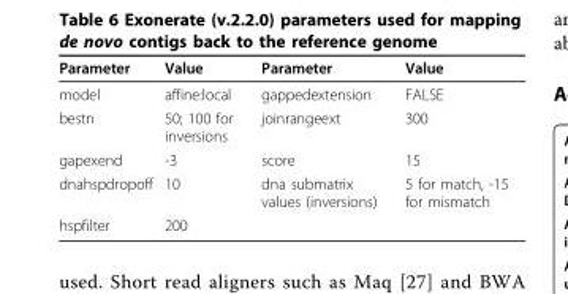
<table><thead><tr><td>Parameter</td><td>Value</td><td>Parameter</td><td>Value</td></tr></thead><tbody><tr><td>model</td><td>affine:local</td><td>gappedextension</td><td>FALSE</td></tr><tr><td>bestn</td><td>50; 100 for inversions</td><td>joinrangeext</td><td>300</td></tr><tr><td>gapexend</td><td>-3</td><td>score</td><td>15</td></tr><tr><td>dnahspdropoff</td><td>10</td><td>dna submatrix values (inversions)</td><td>5 for match, -15 for mismatch</td></tr><tr><td>hspfilter</td><td>200</td><td></td><td></td></tr></tbody></table>